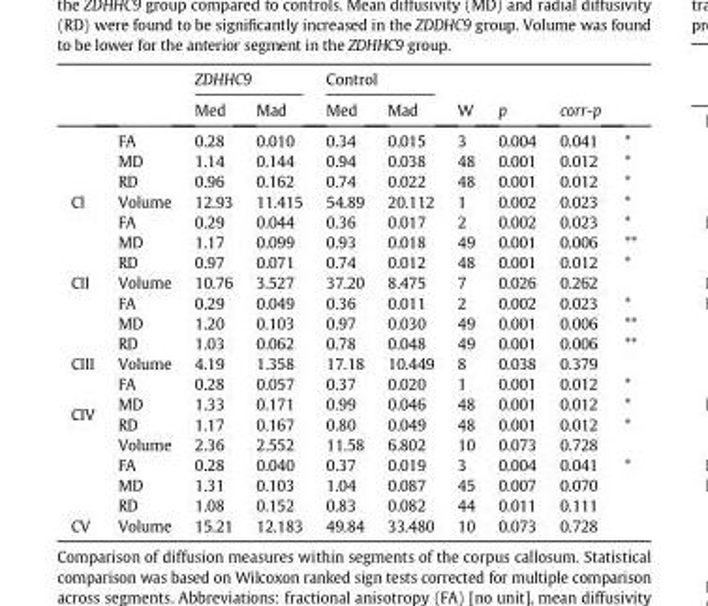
<table><thead><tr><td rowspan="2"></td><td rowspan="2"></td><td colspan="2">ZDHHC9</td><td colspan="2">Control</td><td rowspan="2">W</td><td rowspan="2">p</td><td rowspan="2">corr-p</td><td rowspan="2"></td></tr><tr><td>Med</td><td>Mad</td><td>Med</td><td>Mad</td></tr></thead><tbody><tr><td rowspan="4">Cl</td><td>FA</td><td>0.28</td><td>0.010</td><td>0.34</td><td>0.015</td><td>3</td><td>0.004</td><td>0.041</td><td>*</td></tr><tr><td>MD</td><td>1.14</td><td>0.144</td><td>0.94</td><td>0.038</td><td>48</td><td>0.001</td><td>0.012</td><td>*</td></tr><tr><td>RD</td><td>0.96</td><td>0.162</td><td>0.74</td><td>0.022</td><td>48</td><td>0.001</td><td>0.012</td><td>*</td></tr><tr><td>Volume</td><td>12.93</td><td>11.415</td><td>54.89</td><td>20.112</td><td>1</td><td>0.002</td><td>0.023</td><td>*</td></tr><tr><td rowspan="4">CII</td><td>FA</td><td>0.29</td><td>0.044</td><td>0.36</td><td>0.017</td><td>2</td><td>0.002</td><td>0.023</td><td>*</td></tr><tr><td>MD</td><td>1.17</td><td>0.099</td><td>0.93</td><td>0.018</td><td>49</td><td>0.001</td><td>0.006</td><td>**</td></tr><tr><td>RD</td><td>0.97</td><td>0.071</td><td>0.74</td><td>0.012</td><td>48</td><td>0.001</td><td>0.012</td><td>*</td></tr><tr><td>Volume</td><td>10.76</td><td>3.527</td><td>37.20</td><td>8.475</td><td>7</td><td>0.026</td><td>0.262</td><td></td></tr><tr><td rowspan="4">CIII</td><td>FA</td><td>0.29</td><td>0.049</td><td>0.36</td><td>0.011</td><td>2</td><td>0.002</td><td>0.023</td><td>*</td></tr><tr><td>MD</td><td>1.20</td><td>0.103</td><td>0.97</td><td>0.030</td><td>49</td><td>0.001</td><td>0.006</td><td>**</td></tr><tr><td>RD</td><td>1.03</td><td>0.062</td><td>0.78</td><td>0.048</td><td>49</td><td>0.001</td><td>0.006</td><td>**</td></tr><tr><td>Volume</td><td>4.19</td><td>1.358</td><td>17.18</td><td>10.449</td><td>8</td><td>0.038</td><td>0.379</td><td></td></tr><tr><td rowspan="4">CIV</td><td>FA</td><td>0.28</td><td>0.057</td><td>0.37</td><td>0.020</td><td>1</td><td>0.001</td><td>0.012</td><td>*</td></tr><tr><td>MD</td><td>1.33</td><td>0.171</td><td>0.99</td><td>0.046</td><td>48</td><td>0.001</td><td>0.012</td><td>*</td></tr><tr><td>RD</td><td>1.17</td><td>0.167</td><td>0.80</td><td>0.049</td><td>48</td><td>0.001</td><td>0.012</td><td>*</td></tr><tr><td>Volume</td><td>2.36</td><td>2.552</td><td>11.58</td><td>6.802</td><td>10</td><td>0.073</td><td>0.728</td><td></td></tr><tr><td rowspan="4">CV</td><td>FA</td><td>0.28</td><td>0.040</td><td>0.37</td><td>0.019</td><td>3</td><td>0.004</td><td>0.041</td><td>*</td></tr><tr><td>MD</td><td>1.31</td><td>0.103</td><td>1.04</td><td>0.087</td><td>45</td><td>0.007</td><td>0.070</td><td></td></tr><tr><td>RD</td><td>1.08</td><td>0.152</td><td>0.83</td><td>0.082</td><td>44</td><td>0.011</td><td>0.111</td><td></td></tr><tr><td>Volume</td><td>15.21</td><td>12.183</td><td>49.84</td><td>33.480</td><td>10</td><td>0.073</td><td>0.728</td><td></td></tr></tbody></table>